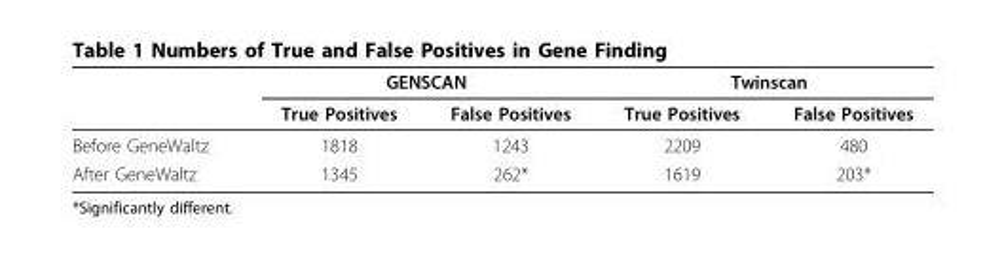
<table><thead><tr><td rowspan="2"></td><td colspan="2">GENSCAN</td><td colspan="2">Twinscan</td></tr><tr><td>True Positives</td><td>False Positives</td><td>True Positives</td><td>False Positives</td></tr></thead><tbody><tr><td>Before GeneWaltz</td><td>1818</td><td>1243</td><td>2209</td><td>480</td></tr><tr><td>After GeneWaltz</td><td>1345</td><td>262*</td><td>1619</td><td>203*</td></tr></tbody></table>